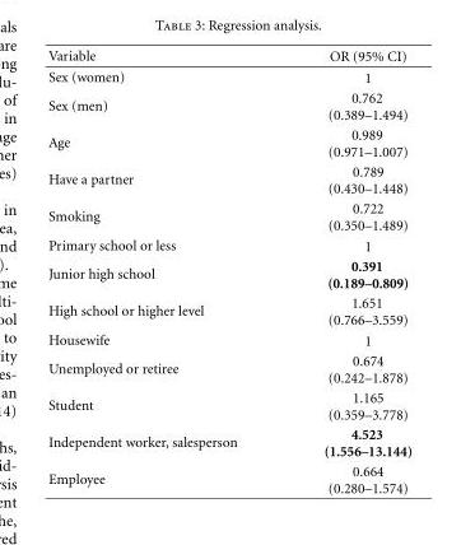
<table><thead><tr><td>Variable</td><td>OR (95% CI)</td></tr></thead><tbody><tr><td>Sex (women)</td><td>1</td></tr><tr><td>Sex (men)</td><td>0.762 (0.389–1.494)</td></tr><tr><td>Age</td><td>0.989 (0.971–1.007)</td></tr><tr><td>Have a partner</td><td>0.789 (0.430–1.448)</td></tr><tr><td>Smoking</td><td>0.722 (0.350–1.489)</td></tr><tr><td>Primary school or less</td><td>1</td></tr><tr><td>Junior high school</td><td>0.391 (0.189–0.809)</td></tr><tr><td>High school or higher level</td><td>1.651 (0.766–3.559)</td></tr><tr><td>Housewife</td><td>1</td></tr><tr><td>Unemployed or retiree</td><td>0.674 (0.242–1.878)</td></tr><tr><td>Student</td><td>1.165 (0.359–3.778)</td></tr><tr><td>Independent worker, salesperson</td><td>4.523 (1.556–13.144)</td></tr><tr><td>Employee</td><td>0.664 (0.280–1.574)</td></tr></tbody></table>